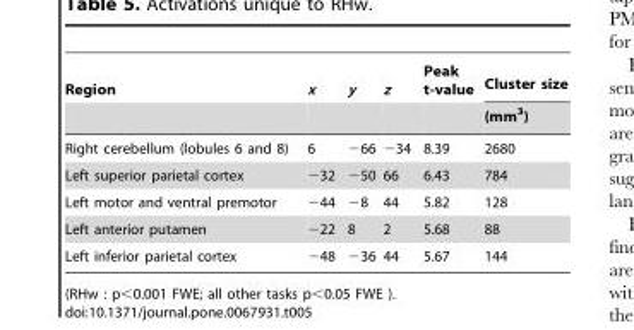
<table><thead><tr><td rowspan="2">Region</td><td rowspan="2">x</td><td rowspan="2">y</td><td rowspan="2">z</td><td rowspan="2">Peak t-value</td><td rowspan="2">Cluster size (mm<sup>3</sup>)</td></tr><tr></tr></thead><tbody><tr><td>Right cerebellum (lobules 6 and 8)</td><td>6</td><td>−66</td><td>−34</td><td>8.39</td><td>2680</td></tr><tr><td>Left superior parietal cortex</td><td>−32</td><td>−50</td><td>66</td><td>6.43</td><td>784</td></tr><tr><td>Left motor and ventral premotor</td><td>−44</td><td>−8</td><td>44</td><td>5.82</td><td>128</td></tr><tr><td>Left anterior putamen</td><td>−22</td><td>8</td><td>2</td><td>5.68</td><td>88</td></tr><tr><td>Left inferior parietal cortex</td><td>−48</td><td>−36</td><td>44</td><td>5.67</td><td>144</td></tr></tbody></table>